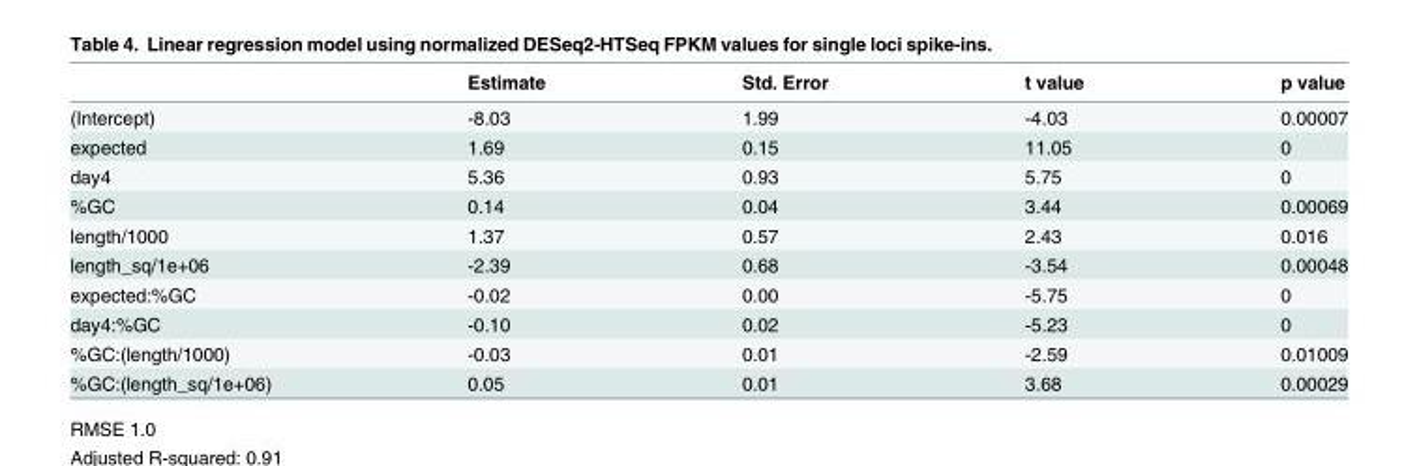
<table><thead><tr><td></td><td>Estimate</td><td>Std. Error</td><td>t value</td><td>p value</td></tr></thead><tbody><tr><td>(Intercept)</td><td>-8.03</td><td>1.99</td><td>-4.03</td><td>0.00007</td></tr><tr><td>expected</td><td>1.69</td><td>0.15</td><td>11.05</td><td>0</td></tr><tr><td>day4</td><td>5.36</td><td>0.93</td><td>5.75</td><td>0</td></tr><tr><td>%GC</td><td>0.14</td><td>0.04</td><td>3.44</td><td>0.00069</td></tr><tr><td>length/1000</td><td>1.37</td><td>0.57</td><td>2.43</td><td>0.016</td></tr><tr><td>length_sq/1e+06</td><td>-2.39</td><td>0.68</td><td>-3.54</td><td>0.00048</td></tr><tr><td>expected:%GC</td><td>-0.02</td><td>0.00</td><td>-5.75</td><td>0</td></tr><tr><td>day4:%GC</td><td>-0.10</td><td>0.02</td><td>-5.23</td><td>0</td></tr><tr><td>%GC:(length/1000)</td><td>-0.03</td><td>0.01</td><td>-2.59</td><td>0.01009</td></tr><tr><td>%GC:(length_sq/1e+06)</td><td>0.05</td><td>0.01</td><td>3.68</td><td>0.00029</td></tr></tbody></table>